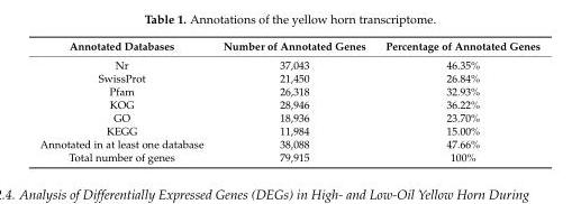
<table><thead><tr><td>Annotated Databases</td><td>Number of Annotated Genes</td><td>Percentage of Annotated Genes</td></tr></thead><tbody><tr><td>Nr</td><td>37,043</td><td>46.35%</td></tr><tr><td>SwissProt</td><td>21,450</td><td>26.84%</td></tr><tr><td>Pfam</td><td>26,318</td><td>32.93%</td></tr><tr><td>KOG</td><td>28,946</td><td>36.22%</td></tr><tr><td>GO</td><td>18,936</td><td>23.70%</td></tr><tr><td>KEGG</td><td>11,984</td><td>15.00%</td></tr><tr><td>Annotated in at least one database</td><td>38,088</td><td>47.66%</td></tr><tr><td>Total number of genes</td><td>79,915</td><td>100%</td></tr></tbody></table>